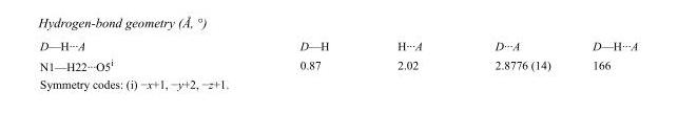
<table><tbody><tr><td>D—H···A</td><td>D—H</td><td>H···A</td><td>D···A</td><td>D—H···A</td></tr><tr><td>N1—H22···O5<sup>i</sup></td><td>0.87</td><td>2.02</td><td>2.8776 (14)</td><td>166</td></tr></tbody></table>